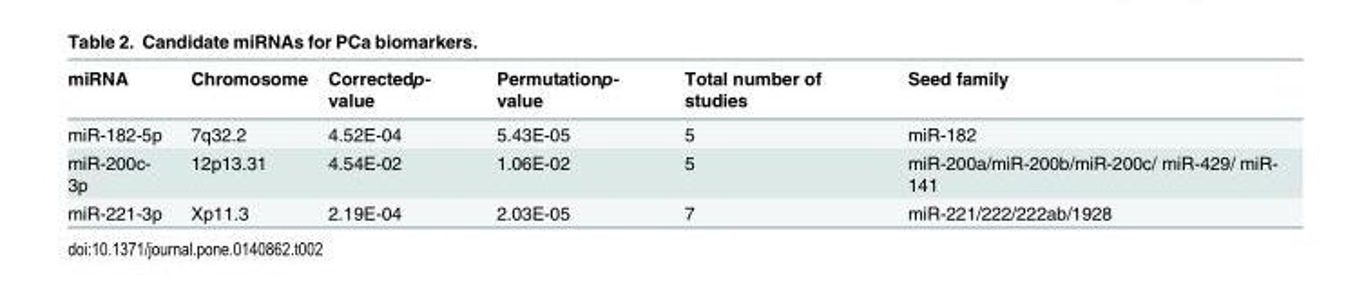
<table><thead><tr><td>miRNA</td><td>Chromosome</td><td>Correctedp- value</td><td>Permutationp- value</td><td>Total number of studies</td><td>Seed family</td></tr></thead><tbody><tr><td>miR-182-5p</td><td>7q32.2</td><td>4.52E-04</td><td>5.43E-05</td><td>5</td><td>miR-182</td></tr><tr><td>miR-200c- 3p</td><td>12p13.31</td><td>4.54E-02</td><td>1.06E-02</td><td>5</td><td>miR-200a/miR-200b/miR-200c/ miR-429/ miR- 141</td></tr><tr><td>miR-221-3p</td><td>Xp11.3</td><td>2.19E-04</td><td>2.03E-05</td><td>7</td><td>miR-221/222/222ab/1928</td></tr></tbody></table>